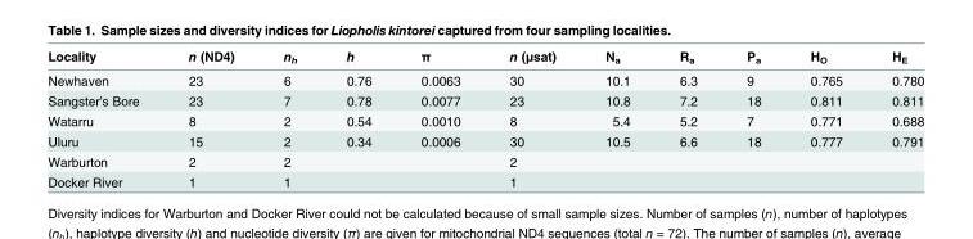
<table><thead><tr><td>Locality</td><td>n (ND4)</td><td>n<sub>h</sub></td><td>h</td><td>π</td><td>n (μsat)</td><td>N<sub>a</sub></td><td>R<sub>a</sub></td><td>P<sub>a</sub></td><td>H<sub>O</sub></td><td>H<sub>E</sub></td></tr></thead><tbody><tr><td>Newhaven</td><td>23</td><td>6</td><td>0.76</td><td>0.0063</td><td>30</td><td>10.1</td><td>6.3</td><td>9</td><td>0.765</td><td>0.780</td></tr><tr><td>Sangster’s Bore</td><td>23</td><td>7</td><td>0.78</td><td>0.0077</td><td>23</td><td>10.8</td><td>7.2</td><td>18</td><td>0.811</td><td>0.811</td></tr><tr><td>Watarru</td><td>8</td><td>2</td><td>0.54</td><td>0.0010</td><td>8</td><td>5.4</td><td>5.2</td><td>7</td><td>0.771</td><td>0.688</td></tr><tr><td>Uluru</td><td>15</td><td>2</td><td>0.34</td><td>0.0006</td><td>30</td><td>10.5</td><td>6.6</td><td>18</td><td>0.777</td><td>0.791</td></tr><tr><td>Warburton</td><td>2</td><td>2</td><td></td><td></td><td>2</td><td></td><td></td><td></td><td></td><td></td></tr><tr><td>Docker River</td><td>1</td><td>1</td><td></td><td></td><td>1</td><td></td><td></td><td></td><td></td><td></td></tr></tbody></table>